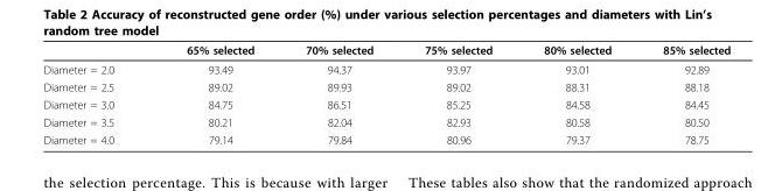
<table><thead><tr><td></td><td>65% selected</td><td>70% selected</td><td>75% selected</td><td>80% selected</td><td>85% selected</td></tr></thead><tbody><tr><td>Diameter = 2.0</td><td>93.49</td><td>94.37</td><td>93.97</td><td>93.01</td><td>92.89</td></tr><tr><td>Diameter = 2.5</td><td>89.02</td><td>89.93</td><td>89.02</td><td>88.31</td><td>88.18</td></tr><tr><td>Diameter = 3.0</td><td>84.75</td><td>86.51</td><td>85.25</td><td>84.58</td><td>84.45</td></tr><tr><td>Diameter = 3.5</td><td>80.21</td><td>82.04</td><td>82.93</td><td>80.58</td><td>80.50</td></tr><tr><td>Diameter = 4.0</td><td>79.14</td><td>79.84</td><td>80.96</td><td>79.37</td><td>78.75</td></tr></tbody></table>